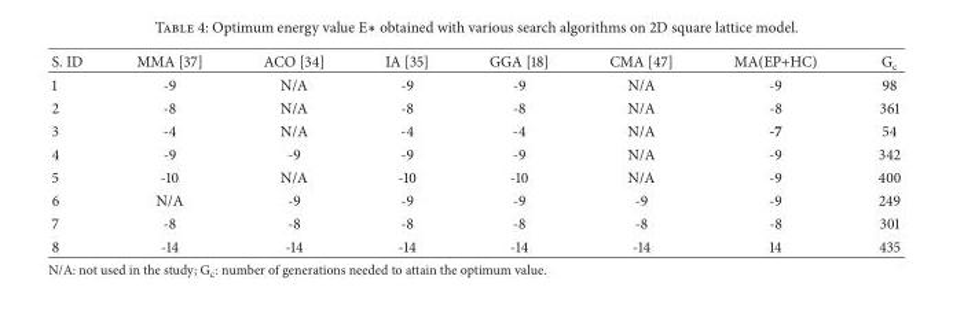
<table><thead><tr><td>S. ID</td><td>MMA [37]</td><td>ACO [34]</td><td>IA [35]</td><td>GGA [18]</td><td>CMA [47]</td><td>MA(EP+HC)</td><td>G<sub>c</sub></td></tr></thead><tbody><tr><td>1</td><td>-9</td><td>N/A</td><td>-9</td><td>-9</td><td>N/A</td><td>-9</td><td>98</td></tr><tr><td>2</td><td>-8</td><td>N/A</td><td>-8</td><td>-8</td><td>N/A</td><td>-8</td><td>361</td></tr><tr><td>3</td><td>-4</td><td>N/A</td><td>-4</td><td>-4</td><td>N/A</td><td>-7</td><td>54</td></tr><tr><td>4</td><td>-9</td><td>-9</td><td>-9</td><td>-9</td><td>N/A</td><td>-9</td><td>342</td></tr><tr><td>5</td><td>-10</td><td>N/A</td><td>-10</td><td>-10</td><td>N/A</td><td>-9</td><td>400</td></tr><tr><td>6</td><td>N/A</td><td>-9</td><td>-9</td><td>-9</td><td>-9</td><td>-9</td><td>249</td></tr><tr><td>7</td><td>-8</td><td>-8</td><td>-8</td><td>-8</td><td>-8</td><td>-8</td><td>301</td></tr><tr><td>8</td><td>-14</td><td>-14</td><td>-14</td><td>-14</td><td>-14</td><td>14</td><td>435</td></tr></tbody></table>